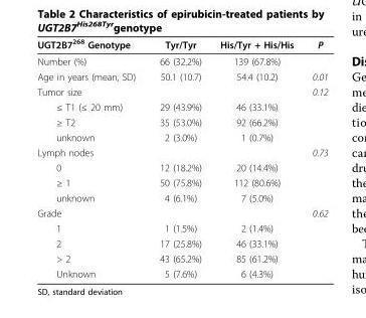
<table><thead><tr><td>UGT2B7<sup>268</sup> Genotype</td><td>Tyr/Tyr</td><td>His/Tyr + His/His</td><td>P</td></tr></thead><tbody><tr><td>Number (%)</td><td>66 (32.2%)</td><td>139 (67.8%)</td><td></td></tr><tr><td>Age in years (mean, SD)</td><td>50.1 (10.7)</td><td>54.4 (10.2)</td><td>0.01</td></tr><tr><td>Tumor size</td><td></td><td></td><td>0.12</td></tr><tr><td>≤ T1 (≤ 20 mm)</td><td>29 (43.9%)</td><td>46 (33.1%)</td><td></td></tr><tr><td>≥ T2</td><td>35 (53.0%)</td><td>92 (66.2%)</td><td></td></tr><tr><td>unknown</td><td>2 (3.0%)</td><td>1 (0.7%)</td><td></td></tr><tr><td>Lymph nodes</td><td></td><td></td><td>0.73</td></tr><tr><td>0</td><td>12 (18.2%)</td><td>20 (14.4%)</td><td></td></tr><tr><td>≥ 1</td><td>50 (75.8%)</td><td>112 (80.6%)</td><td></td></tr><tr><td>unknown</td><td>4 (6.1%)</td><td>7 (5.0%)</td><td></td></tr><tr><td>Grade</td><td></td><td></td><td>0.62</td></tr><tr><td>1</td><td>1 (1.5%)</td><td>2 (1.4%)</td><td></td></tr><tr><td>2</td><td>17 (25.8%)</td><td>46 (33.1%)</td><td></td></tr><tr><td>&gt; 2</td><td>43 (65.2%)</td><td>85 (61.2%)</td><td></td></tr><tr><td>Unknown</td><td>5 (7.6%)</td><td>6 (4.3%)</td><td></td></tr></tbody></table>